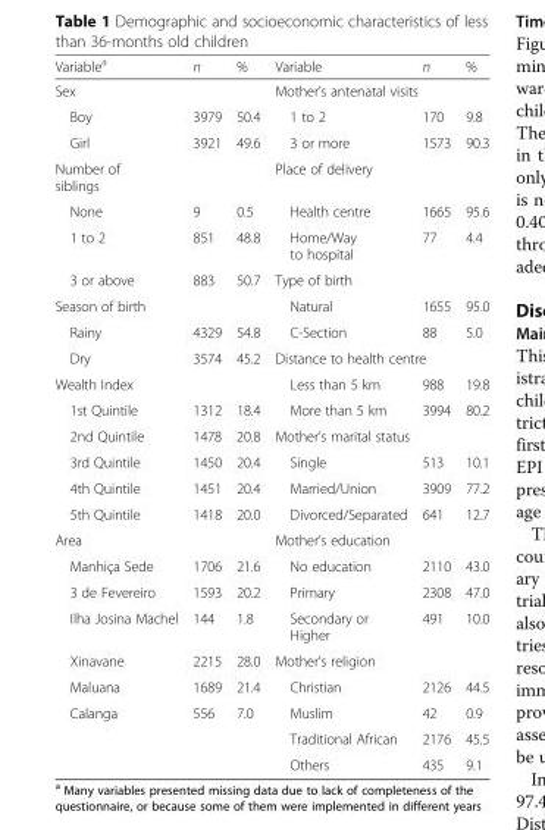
<table><thead><tr><td>Variable<sup>a</sup></td><td>n</td><td>%</td><td>Variable</td><td>n</td><td>%</td></tr></thead><tbody><tr><td colspan="3">Sex</td><td colspan="3">Mother’s antenatal visits</td></tr><tr><td>Boy</td><td>3979</td><td>50.4</td><td>1 to 2</td><td>170</td><td>9.8</td></tr><tr><td>Girl</td><td>3921</td><td>49.6</td><td>3 or more</td><td>1573</td><td>90.3</td></tr><tr><td colspan="3">Number of siblings</td><td colspan="3">Place of delivery</td></tr><tr><td>None</td><td>9</td><td>0.5</td><td>Health centre</td><td>1665</td><td>95.6</td></tr><tr><td>1 to 2</td><td>851</td><td>48.8</td><td>Home/Way to hospital</td><td>77</td><td>4.4</td></tr><tr><td>3 or above</td><td>883</td><td>50.7</td><td colspan="3">Type of birth</td></tr><tr><td colspan="3">Season of birth</td><td>Natural</td><td>1655</td><td>95.0</td></tr><tr><td>Rainy</td><td>4329</td><td>54.8</td><td>C-Section</td><td>88</td><td>5.0</td></tr><tr><td>Dry</td><td>3574</td><td>45.2</td><td colspan="3">Distance to health centre</td></tr><tr><td colspan="3">Wealth Index</td><td>Less than 5 km</td><td>988</td><td>19.8</td></tr><tr><td>1st Quintile</td><td>1312</td><td>18.4</td><td>More than 5 km</td><td>3994</td><td>80.2</td></tr><tr><td>2nd Quintile</td><td>1478</td><td>20.8</td><td colspan="3">Mother’s marital status</td></tr><tr><td>3rd Quintile</td><td>1450</td><td>20.4</td><td>Single</td><td>513</td><td>10.1</td></tr><tr><td>4th Quintile</td><td>1451</td><td>20.4</td><td>Married/Union</td><td>3909</td><td>77.2</td></tr><tr><td>5th Quintile</td><td>1418</td><td>20.0</td><td>Divorced/Separated</td><td>641</td><td>12.7</td></tr><tr><td colspan="3">Area</td><td colspan="3">Mother’s education</td></tr><tr><td>Manhiça Sede</td><td>1706</td><td>21.6</td><td>No education</td><td>2110</td><td>43.0</td></tr><tr><td>3 de Fevereiro</td><td>1593</td><td>20.2</td><td>Primary</td><td>2308</td><td>47.0</td></tr><tr><td>Ilha Josina Machel</td><td>144</td><td>1.8</td><td>Secondary or Higher</td><td>491</td><td>10.0</td></tr><tr><td>Xinavane</td><td>2215</td><td>28.0</td><td colspan="3">Mother’s religion</td></tr><tr><td>Maluana</td><td>1689</td><td>21.4</td><td>Christian</td><td>2126</td><td>44.5</td></tr><tr><td rowspan="3">Calanga</td><td>556</td><td>7.0</td><td>Muslim</td><td>42</td><td>0.9</td></tr><tr><td></td><td></td><td>Traditional African</td><td>2176</td><td>45.5</td></tr><tr><td></td><td></td><td>Others</td><td>435</td><td>9.1</td></tr></tbody></table>